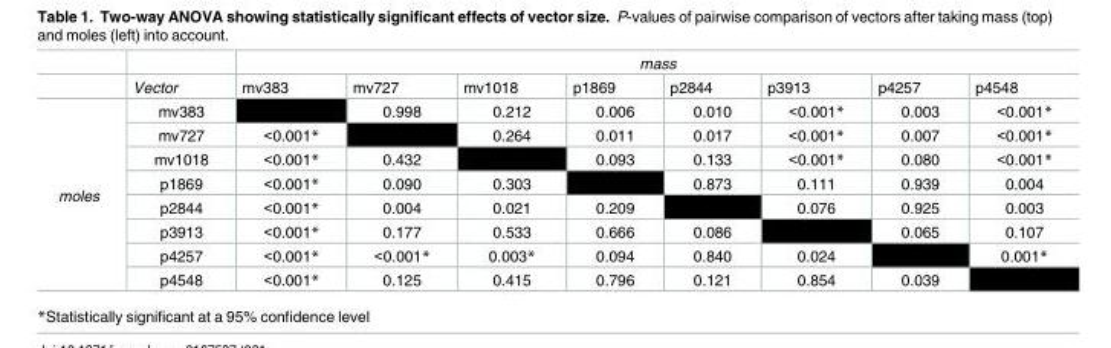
<table><thead><tr><td rowspan="2"></td><td rowspan="2">Vector</td><td colspan="8">mass</td></tr><tr><td>mv383</td><td>mv727</td><td>mv1018</td><td>p1869</td><td>p2844</td><td>p3913</td><td>p4257</td><td>p4548</td></tr></thead><tbody><tr><td rowspan="8">moles</td><td>mv383</td><td></td><td>0.998</td><td>0.212</td><td>0.006</td><td>0.010</td><td>&lt;0.001*</td><td>0.003</td><td>&lt;0.001*</td></tr><tr><td>mv727</td><td>&lt;0.001*</td><td></td><td>0.264</td><td>0.011</td><td>0.017</td><td>&lt;0.001*</td><td>0.007</td><td>&lt;0.001*</td></tr><tr><td>mv1018</td><td>&lt;0.001*</td><td>0.432</td><td></td><td>0.093</td><td>0.133</td><td>&lt;0.001*</td><td>0.080</td><td>&lt;0.001*</td></tr><tr><td>p1869</td><td>&lt;0.001*</td><td>0.090</td><td>0.303</td><td></td><td>0.873</td><td>0.111</td><td>0.939</td><td>0.004</td></tr><tr><td>p2844</td><td>&lt;0.001*</td><td>0.004</td><td>0.021</td><td>0.209</td><td></td><td>0.076</td><td>0.925</td><td>0.003</td></tr><tr><td>p3913</td><td>&lt;0.001*</td><td>0.177</td><td>0.533</td><td>0.666</td><td>0.086</td><td></td><td>0.065</td><td>0.107</td></tr><tr><td>p4257</td><td>&lt;0.001*</td><td>&lt;0.001*</td><td>0.003*</td><td>0.094</td><td>0.840</td><td>0.024</td><td></td><td>0.001*</td></tr><tr><td>p4548</td><td>&lt;0.001*</td><td>0.125</td><td>0.415</td><td>0.796</td><td>0.121</td><td>0.854</td><td>0.039</td><td></td></tr></tbody></table>